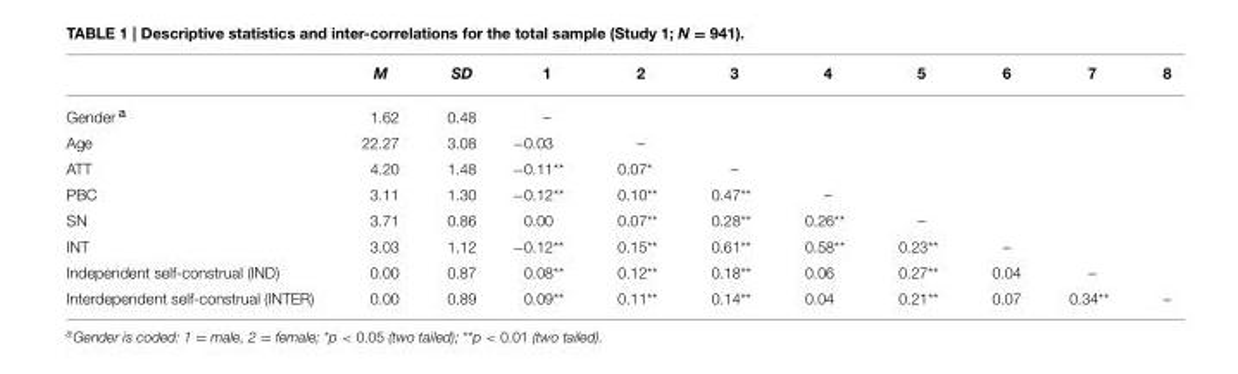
<table><thead><tr><td></td><td>M</td><td>SD</td><td>1</td><td>2</td><td>3</td><td>4</td><td>5</td><td>6</td><td>7</td><td>8</td></tr></thead><tbody><tr><td>Gender <sup>a</sup></td><td>1.62</td><td>0.48</td><td>–</td><td></td><td></td><td></td><td></td><td></td><td></td><td></td></tr><tr><td>Age</td><td>22.27</td><td>3.08</td><td>−0.03</td><td>–</td><td></td><td></td><td></td><td></td><td></td><td></td></tr><tr><td>ATT</td><td>4.20</td><td>1.48</td><td>−0.11**</td><td>0.07*</td><td>–</td><td></td><td></td><td></td><td></td><td></td></tr><tr><td>PBC</td><td>3.11</td><td>1.30</td><td>−0.12**</td><td>0.10**</td><td>0.47**</td><td>–</td><td></td><td></td><td></td><td></td></tr><tr><td>SN</td><td>3.71</td><td>0.86</td><td>0.00</td><td>0.07**</td><td>0.28**</td><td>0.26**</td><td>–</td><td></td><td></td><td></td></tr><tr><td>INT</td><td>3.03</td><td>1.12</td><td>−0.12**</td><td>0.15**</td><td>0.61**</td><td>0.58**</td><td>0.23**</td><td>–</td><td></td><td></td></tr><tr><td>Independent self-construal (IND)</td><td>0.00</td><td>0.87</td><td>0.08**</td><td>0.12**</td><td>0.18**</td><td>0.06</td><td>0.27**</td><td>0.04</td><td>–</td><td></td></tr><tr><td>Interdependent self-construal (INTER)</td><td>0.00</td><td>0.89</td><td>0.09**</td><td>0.11**</td><td>0.14**</td><td>0.04</td><td>0.21**</td><td>0.07</td><td>0.34**</td><td>–</td></tr></tbody></table>